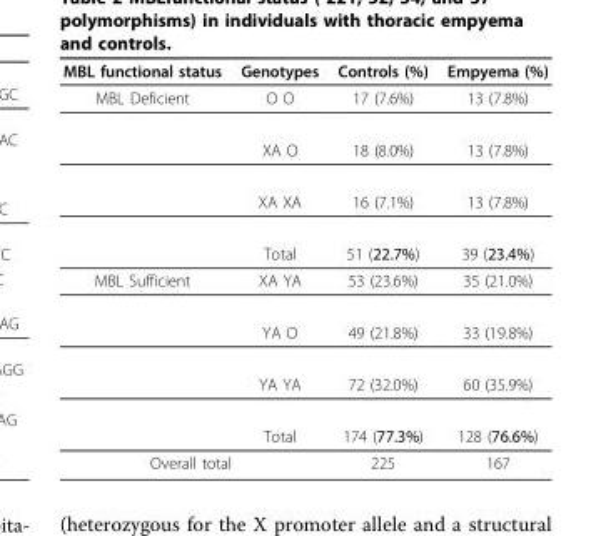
<table><thead><tr><td>MBL functional status</td><td>Genotypes</td><td>Controls (%)</td><td>Empyema (%)</td></tr></thead><tbody><tr><td rowspan="4">MBL Deficient</td><td>O O</td><td>17 (7.6%)</td><td>13 (7.8%)</td></tr><tr><td>XA O</td><td>18 (8.0%)</td><td>13 (7.8%)</td></tr><tr><td>XA XA</td><td>16 (7.1%)</td><td>13 (7.8%)</td></tr><tr><td>Total</td><td>51 (22.7%)</td><td>39 (23.4%)</td></tr><tr><td rowspan="4">MBL Sufficient</td><td>XA YA</td><td>53 (23.6%)</td><td>35 (21.0%)</td></tr><tr><td>YA O</td><td>49 (21.8%)</td><td>33 (19.8%)</td></tr><tr><td>YA YA</td><td>72 (32.0%)</td><td>60 (35.9%)</td></tr><tr><td>Total</td><td>174 (77.3%)</td><td>128 (76.6%)</td></tr><tr><td colspan="2">Overall total</td><td>225</td><td>167</td></tr></tbody></table>